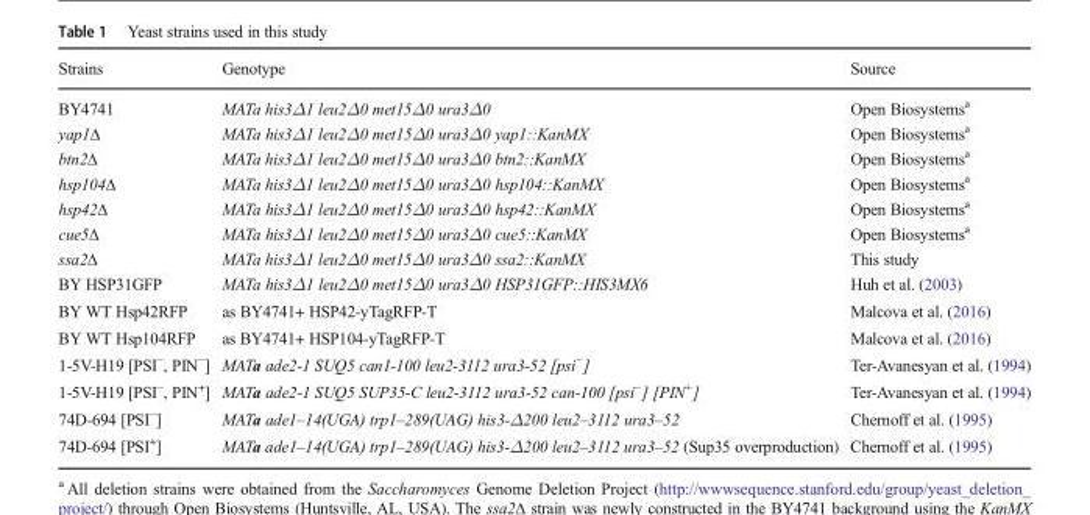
<table><thead><tr><td>Strains</td><td>Genotype</td><td>Source</td></tr></thead><tbody><tr><td>BY4741</td><td>MATa his3Δ1 leu2Δ0 met15Δ0 ura3Δ0</td><td>Open Biosystems<sup>a</sup></td></tr><tr><td>yap1Δ</td><td>MATa his3Δ1 leu2Δ0 met15Δ0 ura3Δ0 yap1::KanMX</td><td>Open Biosystems<sup>a</sup></td></tr><tr><td>btn2Δ</td><td>MATa his3Δ1 leu2Δ0 met15Δ0 ura3Δ0 btn2::KanMX</td><td>Open Biosystems<sup>a</sup></td></tr><tr><td>hsp104Δ</td><td>MATa his3Δ1 leu2Δ0 met15Δ0 ura3Δ0 hsp104::KanMX</td><td>Open Biosystems<sup>a</sup></td></tr><tr><td>hsp42Δ</td><td>MATa his3Δ1 leu2Δ0 met15Δ0 ura3Δ0 hsp42::KanMX</td><td>Open Biosystems<sup>a</sup></td></tr><tr><td>cue5Δ</td><td>MATa his3Δ1 leu2Δ0 met15Δ0 ura3Δ0 cue5::KanMX</td><td>Open Biosystems<sup>a</sup></td></tr><tr><td>ssa2Δ</td><td>MATa his3Δ1 leu2Δ0 met15Δ0 ura3Δ0 ssa2::KanMX</td><td>This study</td></tr><tr><td>BY HSP31GFP</td><td>MATa his3Δ1 leu2Δ0 met15Δ0 ura3Δ0 HSP31GFP::HIS3MX6</td><td>Huh et al. (2003)</td></tr><tr><td>BY WT Hsp42RFP</td><td>as BY4741+ HSP42-yTagRFP-T</td><td>Malcova et al. (2016)</td></tr><tr><td>BY WT Hsp104RFP</td><td>as BY4741+ HSP104-yTagRFP-T</td><td>Malcova et al. (2016)</td></tr><tr><td>1-5V-H19 [PSI<sup>−</sup>, PIN<sup>−</sup>]</td><td>MATa ade2-1 SUQ5 can1-100 leu2-3112 ura3-52 [psi<sup>−</sup>]</td><td>Ter-Avanesyan et al. (1994)</td></tr><tr><td>1-5V-H19 [PSI<sup>−</sup>, PIN<sup>+</sup>]</td><td>MATa ade2-1 SUQ5 SUP35-C leu2-3112 ura3-52 can-100 [psi<sup>−</sup>] [PIN<sup>+</sup>]</td><td>Ter-Avanesyan et al. (1994)</td></tr><tr><td>74D-694 [PSI<sup>−</sup>]</td><td>MATa ade1–14(UGA) trp1–289(UAG) his3-Δ200 leu2–3112 ura3–52</td><td>Chernoff et al. (1995)</td></tr><tr><td>74D-694 [PSI<sup>+</sup>]</td><td>MATa ade1–14(UGA) trp1–289(UAG) his3-Δ200 leu2–3112 ura3–52 (Sup35 overproduction)</td><td>Chernoff et al. (1995)</td></tr></tbody></table>